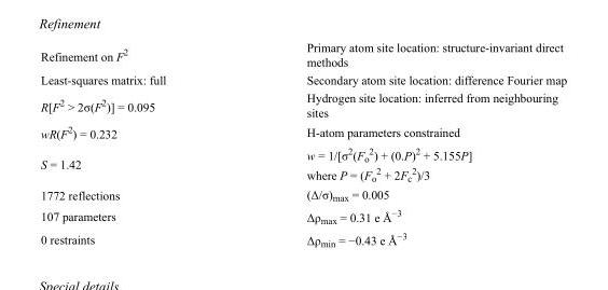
<table><tbody><tr><td>Refinement on F<sup>2</sup></td><td>Primary atom site location: structure-invariant direct methods</td></tr><tr><td>Least-squares matrix: full</td><td>Secondary atom site location: difference Fourier map</td></tr><tr><td>R[F<sup>2</sup> &gt; 2σ(F<sup>2</sup>)] = 0.095</td><td>Hydrogen site location: inferred from neighbouring sites</td></tr><tr><td>wR(F<sup>2</sup>) = 0.232</td><td>H-atom parameters constrained</td></tr><tr><td>S = 1.42</td><td>w = 1/[σ<sup>2</sup>(F<sub>o</sub> <sup>2</sup>) + (0.P)<sup>2</sup> + 5.155P] where P = (F<sub>o</sub> <sup>2</sup> + 2F<sub>c</sub> <sup>2</sup>)/3</td></tr><tr><td>1772 reflections</td><td>(Δ/σ)<sub>max</sub> = 0.005</td></tr><tr><td>107 parameters</td><td>Δρ<sub>max</sub> = 0.31 e Å<sup>−3</sup></td></tr><tr><td>0 restraints</td><td>Δρ<sub>min</sub> = −0.43 e Å<sup>−3</sup></td></tr></tbody></table>